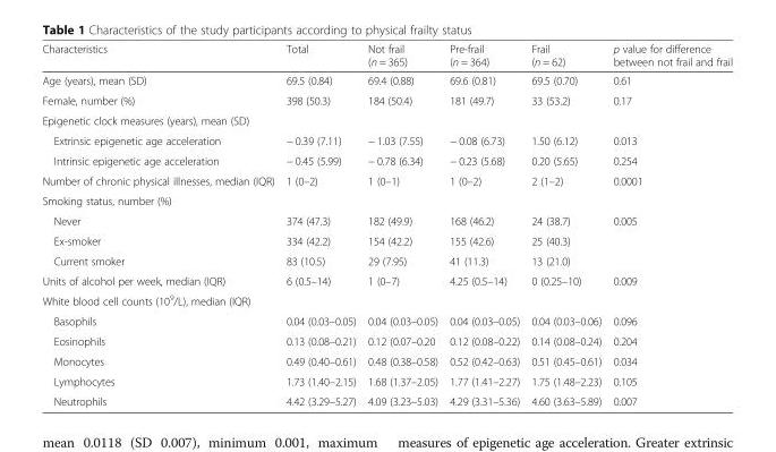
<table><thead><tr><td>Characteristics</td><td>Total</td><td>Not frail (n = 365)</td><td>Pre-frail (n = 364)</td><td>Frail (n = 62)</td><td>p value for difference between not frail and frail</td></tr></thead><tbody><tr><td>Age (years), mean (SD)</td><td>69.5 (0.84)</td><td>69.4 (0.88)</td><td>69.6 (0.81)</td><td>69.5 (0.70)</td><td>0.61</td></tr><tr><td>Female, number (%)</td><td>398 (50.3)</td><td>184 (50.4)</td><td>181 (49.7)</td><td>33 (53.2)</td><td>0.17</td></tr><tr><td colspan="6">Epigenetic clock measures (years), mean (SD)</td></tr><tr><td>Extrinsic epigenetic age acceleration</td><td>− 0.39 (7.11)</td><td>− 1.03 (7.55)</td><td>− 0.08 (6.73)</td><td>1.50 (6.12)</td><td>0.013</td></tr><tr><td>Intrinsic epigenetic age acceleration</td><td>− 0.45 (5.99)</td><td>− 0.78 (6.34)</td><td>− 0.23 (5.68)</td><td>0.20 (5.65)</td><td>0.254</td></tr><tr><td>Number of chronic physical illnesses, median (IQR)</td><td>1 (0–2)</td><td>1 (0–1)</td><td>1 (0–2)</td><td>2 (1–2)</td><td>0.0001</td></tr><tr><td colspan="6">Smoking status, number (%)</td></tr><tr><td>Never</td><td>374 (47.3)</td><td>182 (49.9)</td><td>168 (46.2)</td><td>24 (38.7)</td><td>0.005</td></tr><tr><td>Ex-smoker</td><td>334 (42.2)</td><td>154 (42.2)</td><td>155 (42.6)</td><td>25 (40.3)</td><td></td></tr><tr><td>Current smoker</td><td>83 (10.5)</td><td>29 (7.95)</td><td>41 (11.3)</td><td>13 (21.0)</td><td></td></tr><tr><td>Units of alcohol per week, median (IQR)</td><td>6 (0.5–14)</td><td>1 (0–7)</td><td>4.25 (0.5–14)</td><td>0 (0.25–10)</td><td>0.009</td></tr><tr><td colspan="6">White blood cell counts (10<sup>9</sup>/L), median (IQR)</td></tr><tr><td>Basophils</td><td>0.04 (0.03–0.05)</td><td>0.04 (0.03–0.05)</td><td>0.04 (0.03–0.05)</td><td>0.04 (0.03–0.06)</td><td>0.096</td></tr><tr><td>Eosinophils</td><td>0.13 (0.08–0.21)</td><td>0.12 (0.07–0.20</td><td>0.12 (0.08–0.22)</td><td>0.14 (0.08–0.24)</td><td>0.204</td></tr><tr><td>Monocytes</td><td>0.49 (0.40–0.61)</td><td>0.48 (0.38–0.58)</td><td>0.52 (0.42–0.63)</td><td>0.51 (0.45–0.61)</td><td>0.034</td></tr><tr><td>Lymphocytes</td><td>1.73 (1.40–2.15)</td><td>1.68 (1.37–2.05)</td><td>1.77 (1.41–2.27)</td><td>1.75 (1.48–2.23)</td><td>0.105</td></tr><tr><td>Neutrophils</td><td>4.42 (3.29–5.27)</td><td>4.09 (3.23–5.03)</td><td>4.29 (3.31–5.36)</td><td>4.60 (3.63–5.89)</td><td>0.007</td></tr></tbody></table>